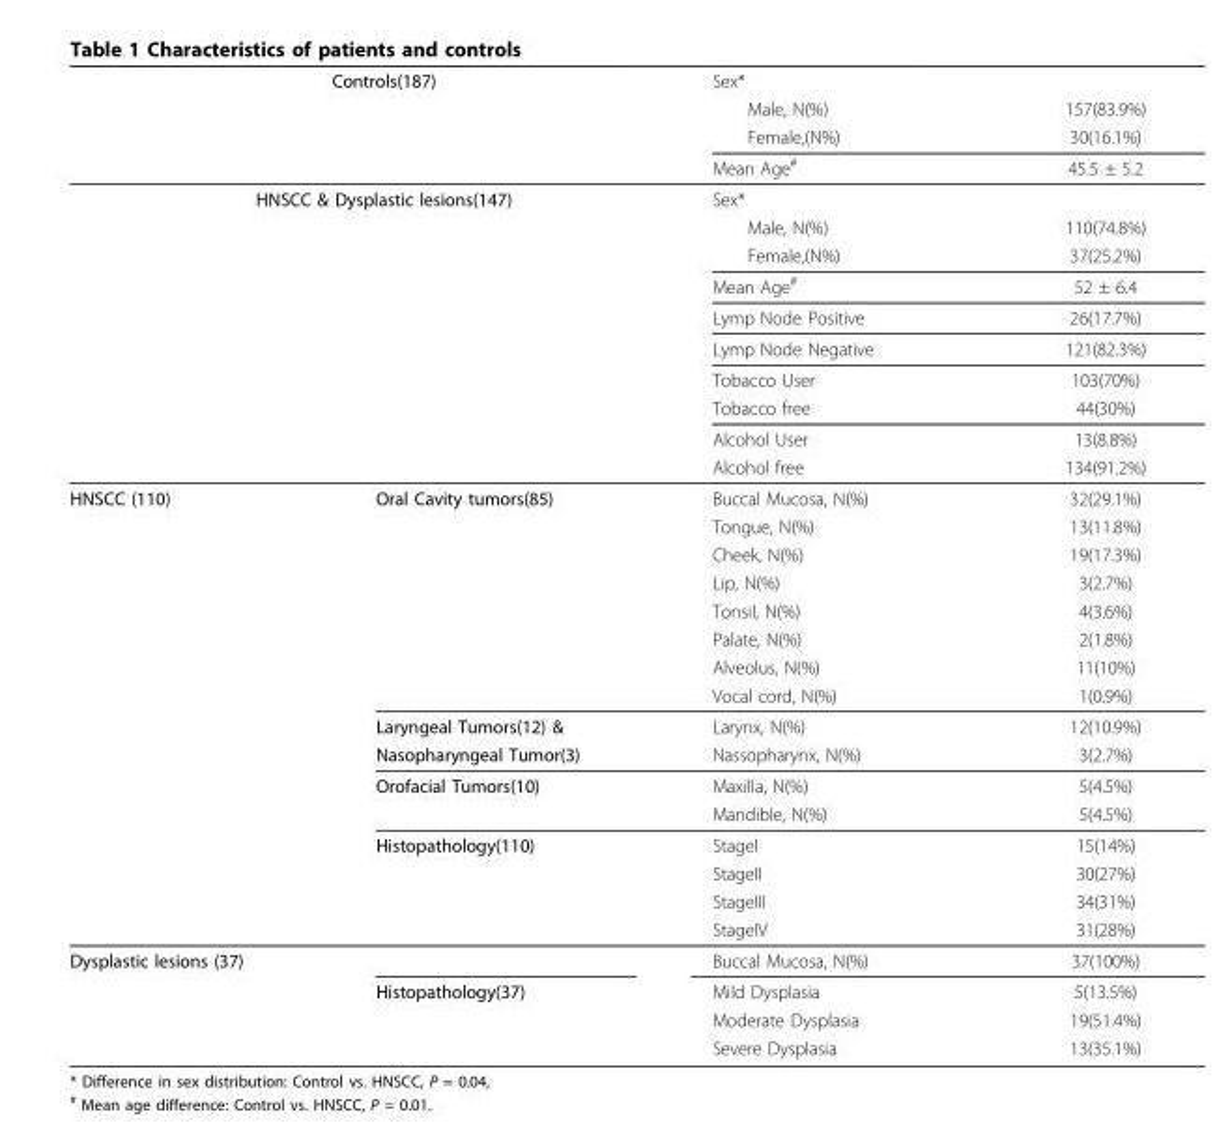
<table><thead><tr><td colspan="2">Controls(187)</td><td rowspan="4">Sex* Male, N(%) Female,(N%) Mean Age#</td><td rowspan="4">157(83.9%) 30(16.1%) 45.5 ± 5.2</td></tr><tr><td rowspan="3"></td><td rowspan="3"></td></tr><tr></tr><tr></tr></thead><tbody><tr><td colspan="2">HNSCC &amp; Dysplastic lesions(147)</td><td>Sex*</td><td></td></tr><tr><td></td><td></td><td>Male, N(%)</td><td>110(74.8%)</td></tr><tr><td></td><td></td><td>Female,(N%)</td><td>37(25.2%)</td></tr><tr><td></td><td></td><td>Mean Age#</td><td>52 ± 6.4</td></tr><tr><td></td><td></td><td>Lymp Node Positive</td><td>26(17.7%)</td></tr><tr><td></td><td></td><td>Lymp Node Negative</td><td>121(82.3%)</td></tr><tr><td></td><td></td><td>Tobacco User</td><td>103(70%)</td></tr><tr><td></td><td></td><td>Tobacco free</td><td>44(30%)</td></tr><tr><td></td><td></td><td>Alcohol User</td><td>13(8.8%)</td></tr><tr><td></td><td></td><td>Alcohol free</td><td>134(91.2%)</td></tr><tr><td rowspan="16">HNSCC (110)</td><td>Oral Cavity tumors(85)</td><td>Buccal Mucosa, N(%)</td><td>32(29.1%)</td></tr><tr><td></td><td>Tongue, N(%)</td><td>13(11.8%)</td></tr><tr><td></td><td>Cheek, N(%)</td><td>19(17.3%)</td></tr><tr><td></td><td>Lip, N(%)</td><td>3(2.7%)</td></tr><tr><td></td><td>Tonsil, N(%)</td><td>4(3.6%)</td></tr><tr><td></td><td>Palate, N(%)</td><td>2(1.8%)</td></tr><tr><td></td><td>Alveolus, N(%)</td><td>11(10%)</td></tr><tr><td></td><td>Vocal cord, N(%)</td><td>1(0.9%)</td></tr><tr><td>Laryngeal Tumors(12) &amp;</td><td>Larynx, N(%)</td><td>12(10.9%)</td></tr><tr><td>Nasopharyngeal Tumor(3)</td><td>Nassopharynx, N(%)</td><td>3(2.7%)</td></tr><tr><td>Orofacial Tumors(10)</td><td>Maxilla, N(%)</td><td>5(4.5%)</td></tr><tr><td></td><td>Mandible, N(%)</td><td>5(4.5%)</td></tr><tr><td>Histopathology(110)</td><td>StageI</td><td>15(14%)</td></tr><tr><td></td><td>StageII</td><td>30(27%)</td></tr><tr><td></td><td>StageIII</td><td>34(31%)</td></tr><tr><td></td><td>StageIV</td><td>31(28%)</td></tr><tr><td rowspan="4">Dysplastic lesions (37)</td><td></td><td>Buccal Mucosa, N(%)</td><td>37(100%)</td></tr><tr><td>Histopathology(37)</td><td>Mild Dysplasia</td><td>5(13.5%)</td></tr><tr><td></td><td>Moderate Dysplasia</td><td>19(51.4%)</td></tr><tr><td></td><td>Severe Dysplasia</td><td>13(35.1%)</td></tr></tbody></table>